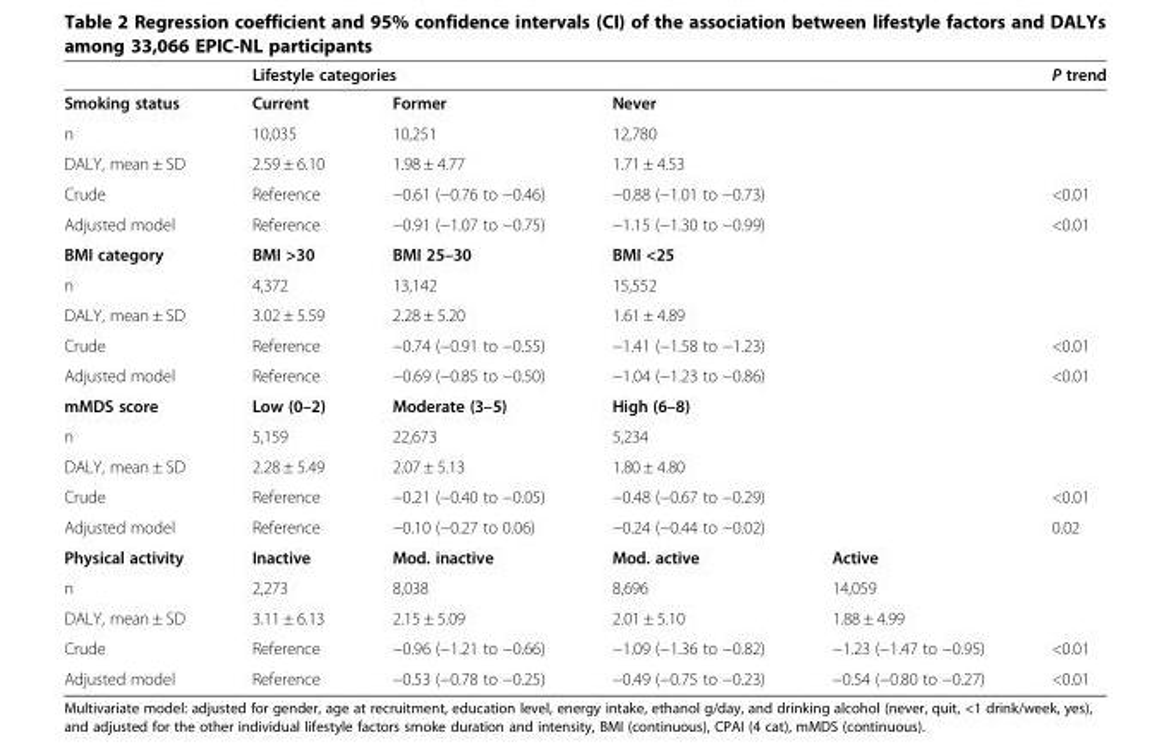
<table><thead><tr><td rowspan="2">Smoking status</td><td colspan="3">Lifestyle categories</td><td rowspan="2"></td><td rowspan="2">P trend</td></tr><tr><td>Current</td><td>Former</td><td>Never</td></tr></thead><tbody><tr><td>n</td><td>10,035</td><td>10,251</td><td>12,780</td><td></td><td></td></tr><tr><td>DALY, mean ± SD</td><td>2.59 ± 6.10</td><td>1.98 ± 4.77</td><td>1.71 ± 4.53</td><td></td><td></td></tr><tr><td>Crude</td><td>Reference</td><td>−0.61 (−0.76 to −0.46)</td><td>−0.88 (−1.01 to −0.73)</td><td></td><td>&lt;0.01</td></tr><tr><td>Adjusted model</td><td>Reference</td><td>−0.91 (−1.07 to −0.75)</td><td>−1.15 (−1.30 to −0.99)</td><td></td><td>&lt;0.01</td></tr><tr><td>BMI category</td><td>BMI &gt;30</td><td>BMI 25–30</td><td>BMI &lt;25</td><td></td><td></td></tr><tr><td>n</td><td>4,372</td><td>13,142</td><td>15,552</td><td></td><td></td></tr><tr><td>DALY, mean ± SD</td><td>3.02 ± 5.59</td><td>2.28 ± 5.20</td><td>1.61 ± 4.89</td><td></td><td></td></tr><tr><td>Crude</td><td>Reference</td><td>−0.74 (−0.91 to −0.55)</td><td>−1.41 (−1.58 to −1.23)</td><td></td><td>&lt;0.01</td></tr><tr><td>Adjusted model</td><td>Reference</td><td>−0.69 (−0.85 to −0.50)</td><td>−1.04 (−1.23 to −0.86)</td><td></td><td>&lt;0.01</td></tr><tr><td>mMDS score</td><td>Low (0–2)</td><td>Moderate (3–5)</td><td>High (6–8)</td><td></td><td></td></tr><tr><td>n</td><td>5,159</td><td>22,673</td><td>5,234</td><td></td><td></td></tr><tr><td>DALY, mean ± SD</td><td>2.28 ± 5.49</td><td>2.07 ± 5.13</td><td>1.80 ± 4.80</td><td></td><td></td></tr><tr><td>Crude</td><td>Reference</td><td>−0.21 (−0.40 to −0.05)</td><td>−0.48 (−0.67 to −0.29)</td><td></td><td>&lt;0.01</td></tr><tr><td>Adjusted model</td><td>Reference</td><td>−0.10 (−0.27 to 0.06)</td><td>−0.24 (−0.44 to −0.02)</td><td></td><td>0.02</td></tr><tr><td>Physical activity</td><td>Inactive</td><td>Mod. inactive</td><td>Mod. active</td><td>Active</td><td></td></tr><tr><td>n</td><td>2,273</td><td>8,038</td><td>8,696</td><td>14,059</td><td></td></tr><tr><td>DALY, mean ± SD</td><td>3.11 ± 6.13</td><td>2.15 ± 5.09</td><td>2.01 ± 5.10</td><td>1.88 ± 4.99</td><td></td></tr><tr><td>Crude</td><td>Reference</td><td>−0.96 (−1.21 to −0.66)</td><td>−1.09 (−1.36 to −0.82)</td><td>−1.23 (−1.47 to −0.95)</td><td>&lt;0.01</td></tr><tr><td>Adjusted model</td><td>Reference</td><td>−0.53 (−0.78 to −0.25)</td><td>−0.49 (−0.75 to −0.23)</td><td>−0.54 (−0.80 to −0.27)</td><td>&lt;0.01</td></tr></tbody></table>